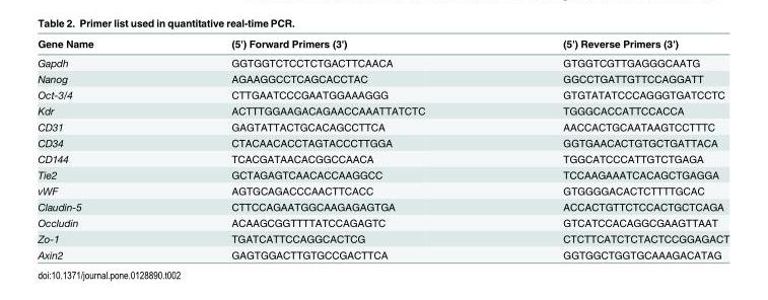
<table><thead><tr><td>Gene Name</td><td>(5&#x27;) Forward Primers (3&#x27;)</td><td>(5&#x27;) Reverse Primers (3&#x27;)</td></tr></thead><tbody><tr><td>Gapdh</td><td>GGTGGTCTCCTCTGACTTCAACA</td><td>GTGGTCGTTGAGGGCAATG</td></tr><tr><td>Nanog</td><td>AGAAGGCCTCAGCACCTAC</td><td>GGCCTGATTGTTCCAGGATT</td></tr><tr><td>Oct-3/4</td><td>CTTGAATCCCGAATGGAAAGGG</td><td>GTGTATATCCCAGGGTGATCCTC</td></tr><tr><td>Kdr</td><td>ACTTTGGAAGACAGAACCAAATTATCTC</td><td>TGGGCACCATTCCACCA</td></tr><tr><td>CD31</td><td>GAGTATTACTGCACAGCCTTCA</td><td>AACCACTGCAATAAGTCCTTTC</td></tr><tr><td>CD34</td><td>CTACAACACCTAGTACCCTTGGA</td><td>GGTGAACACTGTGCTGATTACA</td></tr><tr><td>CD144</td><td>TCACGATAACACGGCCAACA</td><td>TGGCATCCCATTGTCTGAGA</td></tr><tr><td>Tie2</td><td>GCTAGAGTCAACACCAAGGCC</td><td>TCCAAGAAATCACAGCTGAGGA</td></tr><tr><td>vWF</td><td>AGTGCAGACCCAACTTCACC</td><td>GTGGGGACACTCTTTTGCAC</td></tr><tr><td>Claudin-5</td><td>CTTCCAGAATGGCAAGAGAGTGA</td><td>ACCACTGTTCTCCACTGCTCAGA</td></tr><tr><td>Occludin</td><td>ACAAGCGGTTTTATCCAGAGTC</td><td>GTCATCCACAGGCGAAGTTAAT</td></tr><tr><td>Zo-1</td><td>TGATCATTCCAGGCACTCG</td><td>CTCTTCATCTCTACTCCGGAGACT</td></tr><tr><td>Axin2</td><td>GAGTGGACTTGTGCCGACTTCA</td><td>GGTGGCTGGTGCAAAGACATAG</td></tr></tbody></table>